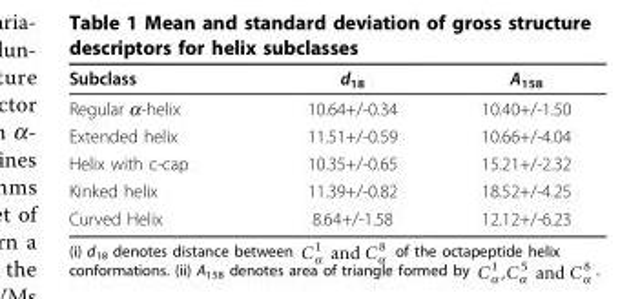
<table><thead><tr><td>Subclass</td><td>d<sub>18</sub></td><td>A<sub>158</sub></td></tr></thead><tbody><tr><td>Regular α-helix</td><td>10.64+/-0.34</td><td>10.40+/-1.50</td></tr><tr><td>Extended helix</td><td>11.51+/-0.59</td><td>10.66+/-4.04</td></tr><tr><td>Helix with c-cap</td><td>10.35+/-0.65</td><td>15.21+/-2.32</td></tr><tr><td>Kinked helix</td><td>11.39+/-0.82</td><td>18.52+/-4.25</td></tr><tr><td>Curved Helix</td><td>8.64+/-1.58</td><td>12.12+/-6.23</td></tr></tbody></table>